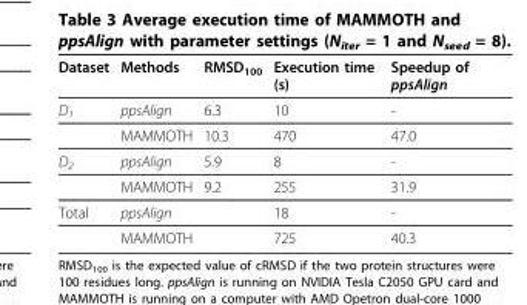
<table><thead><tr><td>Dataset</td><td>Methods</td><td>RMSD<sub>100</sub></td><td>Execution time (s)</td><td>Speedup of ppsAlign</td></tr></thead><tbody><tr><td rowspan="2">D<sub>1</sub></td><td>ppsAlign</td><td>6.3</td><td>10</td><td>-</td></tr><tr><td>MAMMOTH</td><td>10.3</td><td>470</td><td>47.0</td></tr><tr><td rowspan="2">D<sub>2</sub></td><td>ppsAlign</td><td>5.9</td><td>8</td><td>-</td></tr><tr><td>MAMMOTH</td><td>9.2</td><td>255</td><td>31.9</td></tr><tr><td rowspan="2">Total</td><td>ppsAlign</td><td></td><td>18</td><td>-</td></tr><tr><td>MAMMOTH</td><td></td><td>725</td><td>40.3</td></tr></tbody></table>